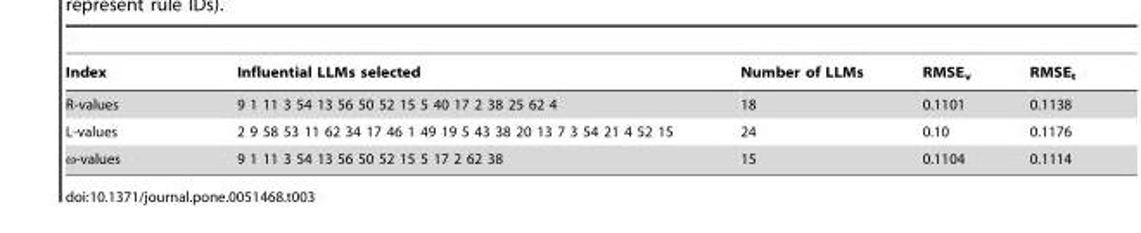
<table><thead><tr><td>Index</td><td>Influential LLMs selected</td><td>Number of LLMs</td><td>RMSE<sub>v</sub></td><td>RMSE<sub>t</sub></td></tr></thead><tbody><tr><td>R-values</td><td>9 1 11 3 54 13 56 50 52 15 5 40 17 2 38 25 62 4</td><td>18</td><td>0.1101</td><td>0.1138</td></tr><tr><td>L-values</td><td>2 9 58 53 11 62 34 17 46 1 49 19 5 43 38 20 13 7 3 54 21 4 52 15</td><td>24</td><td>0.10</td><td>0.1176</td></tr><tr><td>ω-values</td><td>9 1 11 3 54 13 56 50 52 15 5 17 2 62 38</td><td>15</td><td>0.1104</td><td>0.1114</td></tr></tbody></table>